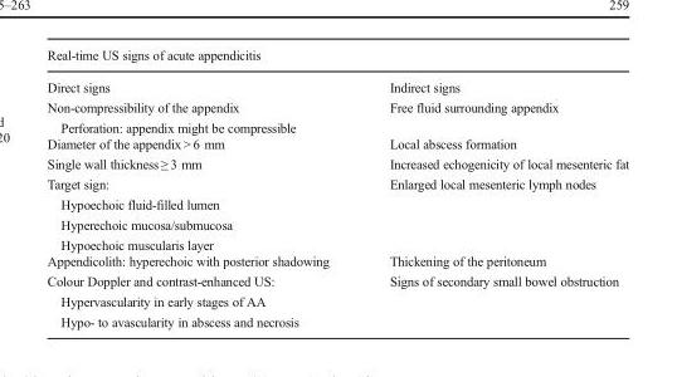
<table><thead><tr><td colspan="2">Real-time US signs of acute appendicitis</td></tr><tr><td>Direct signs</td><td>Indirect signs</td></tr></thead><tbody><tr><td>Non-compressibility of the appendix Perforation: appendix might be compressible</td><td>Free fluid surrounding appendix</td></tr><tr><td>Diameter of the appendix &gt; 6 mm</td><td>Local abscess formation</td></tr><tr><td>Single wall thickness ≥ 3 mm</td><td>Increased echogenicity of local mesenteric fat</td></tr><tr><td>Target sign: Hypoechoic fluid-filled lumen Hyperechoic mucosa/submucosa Hypoechoic muscularis layer</td><td>Enlarged local mesenteric lymph nodes</td></tr><tr><td>Appendicolith: hyperechoic with posterior shadowing</td><td>Thickening of the peritoneum</td></tr><tr><td>Colour Doppler and contrast-enhanced US: Hypervascularity in early stages of AA Hypo- to avascularity in abscess and necrosis</td><td>Signs of secondary small bowel obstruction</td></tr></tbody></table>